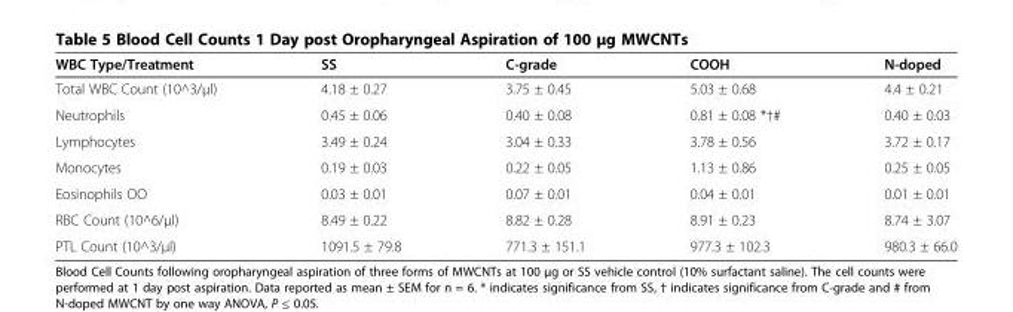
<table><thead><tr><td>WBC Type/Treatment</td><td>SS</td><td>C-grade</td><td>COOH</td><td>N-doped</td></tr></thead><tbody><tr><td>Total WBC Count (10^3/μl)</td><td>4.18 ± 0.27</td><td>3.75 ± 0.45</td><td>5.03 ± 0.68</td><td>4.4 ± 0.21</td></tr><tr><td>Neutrophils</td><td>0.45 ± 0.06</td><td>0.40 ± 0.08</td><td>0.81 ± 0.08 *†#</td><td>0.40 ± 0.03</td></tr><tr><td>Lymphocytes</td><td>3.49 ± 0.24</td><td>3.04 ± 0.33</td><td>3.78 ± 0.56</td><td>3.72 ± 0.17</td></tr><tr><td>Monocytes</td><td>0.19 ± 0.03</td><td>0.22 ± 0.05</td><td>1.13 ± 0.86</td><td>0.25 ± 0.05</td></tr><tr><td>Eosinophils OO</td><td>0.03 ± 0.01</td><td>0.07 ± 0.01</td><td>0.04 ± 0.01</td><td>0.01 ± 0.01</td></tr><tr><td>RBC Count (10^6/μl)</td><td>8.49 ± 0.22</td><td>8.82 ± 0.28</td><td>8.91 ± 0.23</td><td>8.74 ± 3.07</td></tr><tr><td>PTL Count (10^3/μl)</td><td>1091.5 ± 79.8</td><td>771.3 ± 151.1</td><td>977.3 ± 102.3</td><td>980.3 ± 66.0</td></tr></tbody></table>